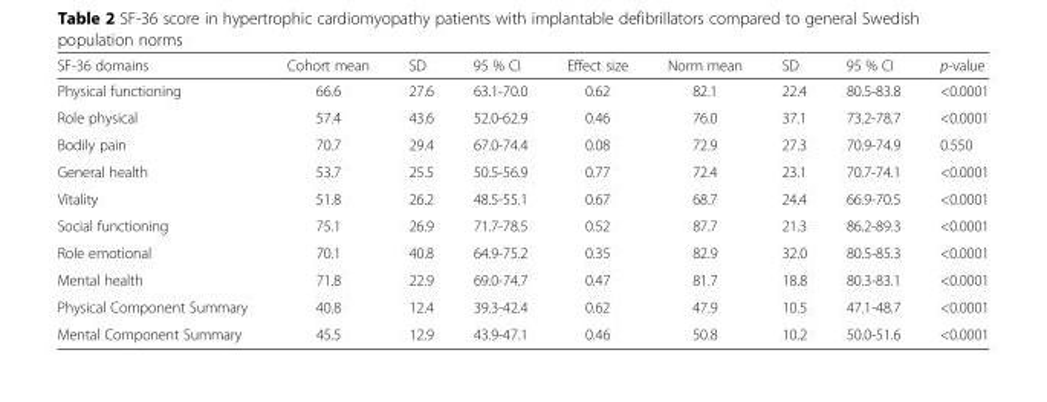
<table><thead><tr><td>SF-36 domains</td><td>Cohort mean</td><td>SD</td><td>95 % CI</td><td>Effect size</td><td>Norm mean</td><td>SD</td><td>95 % CI</td><td>p-value</td></tr></thead><tbody><tr><td>Physical functioning</td><td>66.6</td><td>27.6</td><td>63.1-70.0</td><td>0.62</td><td>82.1</td><td>22.4</td><td>80.5-83.8</td><td>&lt;0.0001</td></tr><tr><td>Role physical</td><td>57.4</td><td>43.6</td><td>52.0-62.9</td><td>0.46</td><td>76.0</td><td>37.1</td><td>73.2-78.7</td><td>&lt;0.0001</td></tr><tr><td>Bodily pain</td><td>70.7</td><td>29.4</td><td>67.0-74.4</td><td>0.08</td><td>72.9</td><td>27.3</td><td>70.9-74.9</td><td>0.550</td></tr><tr><td>General health</td><td>53.7</td><td>25.5</td><td>50.5-56.9</td><td>0.77</td><td>72.4</td><td>23.1</td><td>70.7-74.1</td><td>&lt;0.0001</td></tr><tr><td>Vitality</td><td>51.8</td><td>26.2</td><td>48.5-55.1</td><td>0.67</td><td>68.7</td><td>24.4</td><td>66.9-70.5</td><td>&lt;0.0001</td></tr><tr><td>Social functioning</td><td>75.1</td><td>26.9</td><td>71.7-78.5</td><td>0.52</td><td>87.7</td><td>21.3</td><td>86.2-89.3</td><td>&lt;0.0001</td></tr><tr><td>Role emotional</td><td>70.1</td><td>40.8</td><td>64.9-75.2</td><td>0.35</td><td>82.9</td><td>32.0</td><td>80.5-85.3</td><td>&lt;0.0001</td></tr><tr><td>Mental health</td><td>71.8</td><td>22.9</td><td>69.0-74.7</td><td>0.47</td><td>81.7</td><td>18.8</td><td>80.3-83.1</td><td>&lt;0.0001</td></tr><tr><td>Physical Component Summary</td><td>40.8</td><td>12.4</td><td>39.3-42.4</td><td>0.62</td><td>47.9</td><td>10.5</td><td>47.1-48.7</td><td>&lt;0.0001</td></tr><tr><td>Mental Component Summary</td><td>45.5</td><td>12.9</td><td>43.9-47.1</td><td>0.46</td><td>50.8</td><td>10.2</td><td>50.0-51.6</td><td>&lt;0.0001</td></tr></tbody></table>